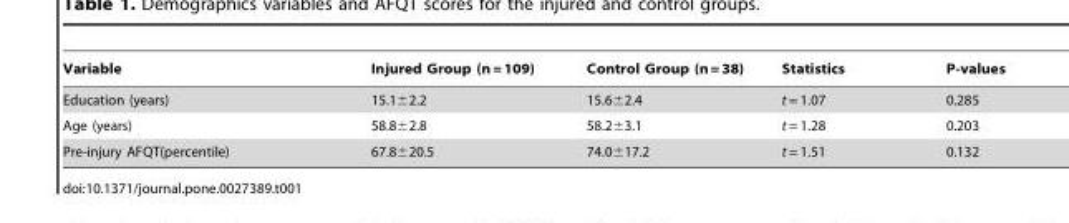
<table><thead><tr><td>Variable</td><td>Injured Group (n = 109)</td><td>Control Group (n = 38)</td><td>Statistics</td><td>P-values</td></tr></thead><tbody><tr><td>Education (years)</td><td>15.1±2.2</td><td>15.6±2.4</td><td>t = 1.07</td><td>0.285</td></tr><tr><td>Age (years)</td><td>58.8±2.8</td><td>58.2±3.1</td><td>t = 1.28</td><td>0.203</td></tr><tr><td>Pre-injury AFQT(percentile)</td><td>67.8±20.5</td><td>74.0±17.2</td><td>t = 1.51</td><td>0.132</td></tr></tbody></table>